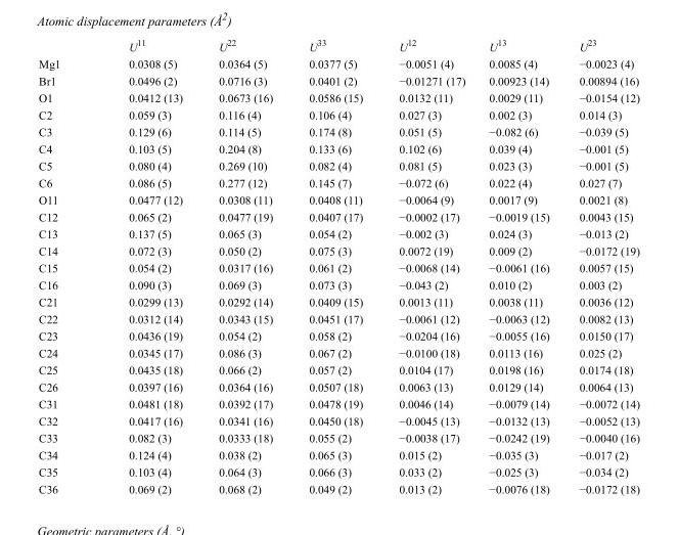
<table><thead><tr><td></td><td>U<sup>11</sup></td><td>U<sup>22</sup></td><td>U<sup>33</sup></td><td>U<sup>12</sup></td><td>U<sup>13</sup></td><td>U<sup>23</sup></td></tr></thead><tbody><tr><td>Mg1</td><td>0.0308 (5)</td><td>0.0364 (5)</td><td>0.0377 (5)</td><td>−0.0051 (4)</td><td>0.0085 (4)</td><td>−0.0023 (4)</td></tr><tr><td>Br1</td><td>0.0496 (2)</td><td>0.0716 (3)</td><td>0.0401 (2)</td><td>−0.01271 (17)</td><td>0.00923 (14)</td><td>0.00894 (16)</td></tr><tr><td>O1</td><td>0.0412 (13)</td><td>0.0673 (16)</td><td>0.0586 (15)</td><td>0.0132 (11)</td><td>0.0029 (11)</td><td>−0.0154 (12)</td></tr><tr><td>C2</td><td>0.059 (3)</td><td>0.116 (4)</td><td>0.106 (4)</td><td>0.027 (3)</td><td>0.002 (3)</td><td>0.014 (3)</td></tr><tr><td>C3</td><td>0.129 (6)</td><td>0.114 (5)</td><td>0.174 (8)</td><td>0.051 (5)</td><td>−0.082 (6)</td><td>−0.039 (5)</td></tr><tr><td>C4</td><td>0.103 (5)</td><td>0.204 (8)</td><td>0.133 (6)</td><td>0.102 (6)</td><td>0.039 (4)</td><td>−0.001 (5)</td></tr><tr><td>C5</td><td>0.080 (4)</td><td>0.269 (10)</td><td>0.082 (4)</td><td>0.081 (5)</td><td>0.023 (3)</td><td>−0.001 (5)</td></tr><tr><td>C6</td><td>0.086 (5)</td><td>0.277 (12)</td><td>0.145 (7)</td><td>−0.072 (6)</td><td>0.022 (4)</td><td>0.027 (7)</td></tr><tr><td>O11</td><td>0.0477 (12)</td><td>0.0308 (11)</td><td>0.0408 (11)</td><td>−0.0064 (9)</td><td>0.0017 (9)</td><td>0.0021 (8)</td></tr><tr><td>C12</td><td>0.065 (2)</td><td>0.0477 (19)</td><td>0.0407 (17)</td><td>−0.0002 (17)</td><td>−0.0019 (15)</td><td>0.0043 (15)</td></tr><tr><td>C13</td><td>0.137 (5)</td><td>0.065 (3)</td><td>0.054 (2)</td><td>−0.002 (3)</td><td>0.024 (3)</td><td>−0.013 (2)</td></tr><tr><td>C14</td><td>0.072 (3)</td><td>0.050 (2)</td><td>0.075 (3)</td><td>0.0072 (19)</td><td>0.009 (2)</td><td>−0.0172 (19)</td></tr><tr><td>C15</td><td>0.054 (2)</td><td>0.0317 (16)</td><td>0.061 (2)</td><td>−0.0068 (14)</td><td>−0.0061 (16)</td><td>0.0057 (15)</td></tr><tr><td>C16</td><td>0.090 (3)</td><td>0.069 (3)</td><td>0.073 (3)</td><td>−0.043 (2)</td><td>0.010 (2)</td><td>0.003 (2)</td></tr><tr><td>C21</td><td>0.0299 (13)</td><td>0.0292 (14)</td><td>0.0409 (15)</td><td>0.0013 (11)</td><td>0.0038 (11)</td><td>0.0036 (12)</td></tr><tr><td>C22</td><td>0.0312 (14)</td><td>0.0343 (15)</td><td>0.0451 (17)</td><td>−0.0061 (12)</td><td>−0.0063 (12)</td><td>0.0082 (13)</td></tr><tr><td>C23</td><td>0.0436 (19)</td><td>0.054 (2)</td><td>0.058 (2)</td><td>−0.0204 (16)</td><td>−0.0055 (16)</td><td>0.0150 (17)</td></tr><tr><td>C24</td><td>0.0345 (17)</td><td>0.086 (3)</td><td>0.067 (2)</td><td>−0.0100 (18)</td><td>0.0113 (16)</td><td>0.025 (2)</td></tr><tr><td>C25</td><td>0.0435 (18)</td><td>0.066 (2)</td><td>0.057 (2)</td><td>0.0104 (17)</td><td>0.0198 (16)</td><td>0.0174 (18)</td></tr><tr><td>C26</td><td>0.0397 (16)</td><td>0.0364 (16)</td><td>0.0507 (18)</td><td>0.0063 (13)</td><td>0.0129 (14)</td><td>0.0064 (13)</td></tr><tr><td>C31</td><td>0.0481 (18)</td><td>0.0392 (17)</td><td>0.0478 (19)</td><td>0.0046 (14)</td><td>−0.0079 (14)</td><td>−0.0072 (14)</td></tr><tr><td>C32</td><td>0.0417 (16)</td><td>0.0341 (16)</td><td>0.0450 (18)</td><td>−0.0045 (13)</td><td>−0.0132 (13)</td><td>−0.0052 (13)</td></tr><tr><td>C33</td><td>0.082 (3)</td><td>0.0333 (18)</td><td>0.055 (2)</td><td>−0.0038 (17)</td><td>−0.0242 (19)</td><td>−0.0040 (16)</td></tr><tr><td>C34</td><td>0.124 (4)</td><td>0.038 (2)</td><td>0.065 (3)</td><td>0.015 (2)</td><td>−0.035 (3)</td><td>−0.017 (2)</td></tr><tr><td>C35</td><td>0.103 (4)</td><td>0.064 (3)</td><td>0.066 (3)</td><td>0.033 (2)</td><td>−0.025 (3)</td><td>−0.034 (2)</td></tr><tr><td>C36</td><td>0.069 (2)</td><td>0.068 (2)</td><td>0.049 (2)</td><td>0.013 (2)</td><td>−0.0076 (18)</td><td>−0.0172 (18)</td></tr></tbody></table>